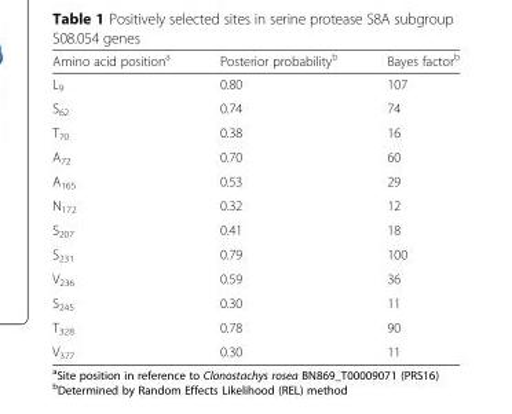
<table><thead><tr><td>Amino acid position<sup>a</sup></td><td>Posterior probability<sup>b</sup></td><td>Bayes factor<sup>b</sup></td></tr></thead><tbody><tr><td>L<sub>9</sub></td><td>0.80</td><td>107</td></tr><tr><td>S<sub>62</sub></td><td>0.74</td><td>74</td></tr><tr><td>T<sub>70</sub></td><td>0.38</td><td>16</td></tr><tr><td>A<sub>72</sub></td><td>0.70</td><td>60</td></tr><tr><td>A<sub>165</sub></td><td>0.53</td><td>29</td></tr><tr><td>N<sub>172</sub></td><td>0.32</td><td>12</td></tr><tr><td>S<sub>207</sub></td><td>0.41</td><td>18</td></tr><tr><td>S<sub>231</sub></td><td>0.79</td><td>100</td></tr><tr><td>V<sub>236</sub></td><td>0.59</td><td>36</td></tr><tr><td>S<sub>245</sub></td><td>0.30</td><td>11</td></tr><tr><td>T<sub>328</sub></td><td>0.78</td><td>90</td></tr><tr><td>V<sub>377</sub></td><td>0.30</td><td>11</td></tr></tbody></table>